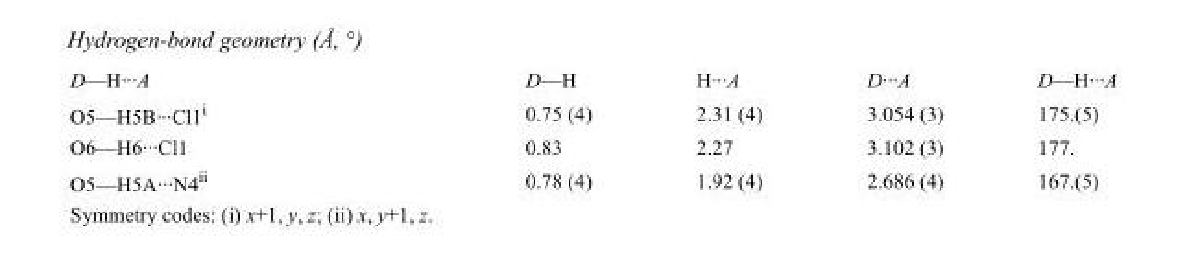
<table><tbody><tr><td>D—H···A</td><td>D—H</td><td>H···A</td><td>D···A</td><td>D—H···A</td></tr><tr><td>O5—H5B···Cl1<sup>i</sup></td><td>0.75 (4)</td><td>2.31 (4)</td><td>3.054 (3)</td><td>175.(5)</td></tr><tr><td>O6—H6···Cl1</td><td>0.83</td><td>2.27</td><td>3.102 (3)</td><td>177.</td></tr><tr><td>O5—H5A···N4<sup>ii</sup></td><td>0.78 (4)</td><td>1.92 (4)</td><td>2.686 (4)</td><td>167.(5)</td></tr></tbody></table>